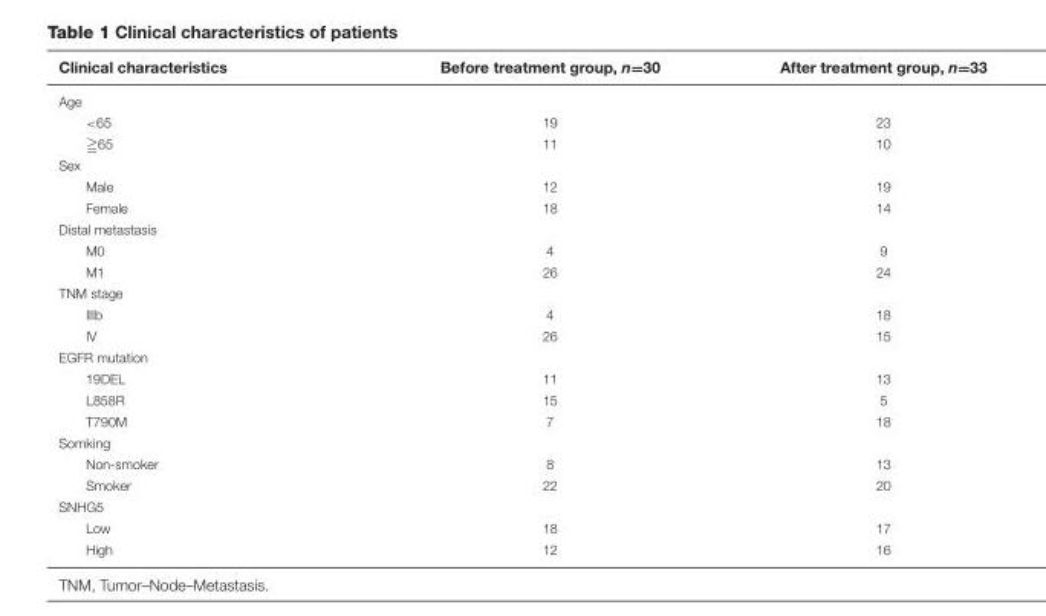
<table><thead><tr><td>Clinical characteristics</td><td>Before treatment group, n=30</td><td>After treatment group, n=33</td></tr></thead><tbody><tr><td colspan="3">Age</td></tr><tr><td>&lt;65</td><td>19</td><td>23</td></tr><tr><td>≧65</td><td>11</td><td>10</td></tr><tr><td colspan="3">Sex</td></tr><tr><td>Male</td><td>12</td><td>19</td></tr><tr><td>Female</td><td>18</td><td>14</td></tr><tr><td colspan="3">Distal metastasis</td></tr><tr><td>M0</td><td>4</td><td>9</td></tr><tr><td>M1</td><td>26</td><td>24</td></tr><tr><td colspan="3">TNM stage</td></tr><tr><td>IIIb</td><td>4</td><td>18</td></tr><tr><td>IV</td><td>26</td><td>15</td></tr><tr><td colspan="3">EGFR mutation</td></tr><tr><td>19DEL</td><td>11</td><td>13</td></tr><tr><td>L858R</td><td>15</td><td>5</td></tr><tr><td>T790M</td><td>7</td><td>18</td></tr><tr><td colspan="3">Somking</td></tr><tr><td>Non-smoker</td><td>8</td><td>13</td></tr><tr><td>Smoker</td><td>22</td><td>20</td></tr><tr><td colspan="3">SNHG5</td></tr><tr><td>Low</td><td>18</td><td>17</td></tr><tr><td>High</td><td>12</td><td>16</td></tr></tbody></table>